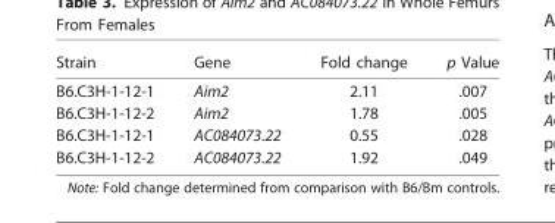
<table><thead><tr><td>Strain</td><td>Gene</td><td>Fold change</td><td>p Value</td></tr></thead><tbody><tr><td>B6.C3H-1-12-1</td><td>Aim2</td><td>2.11</td><td>.007</td></tr><tr><td>B6.C3H-1-12-2</td><td>Aim2</td><td>1.78</td><td>.005</td></tr><tr><td>B6.C3H-1-12-1</td><td>AC084073.22</td><td>0.55</td><td>.028</td></tr><tr><td>B6.C3H-1-12-2</td><td>AC084073.22</td><td>1.92</td><td>.049</td></tr></tbody></table>